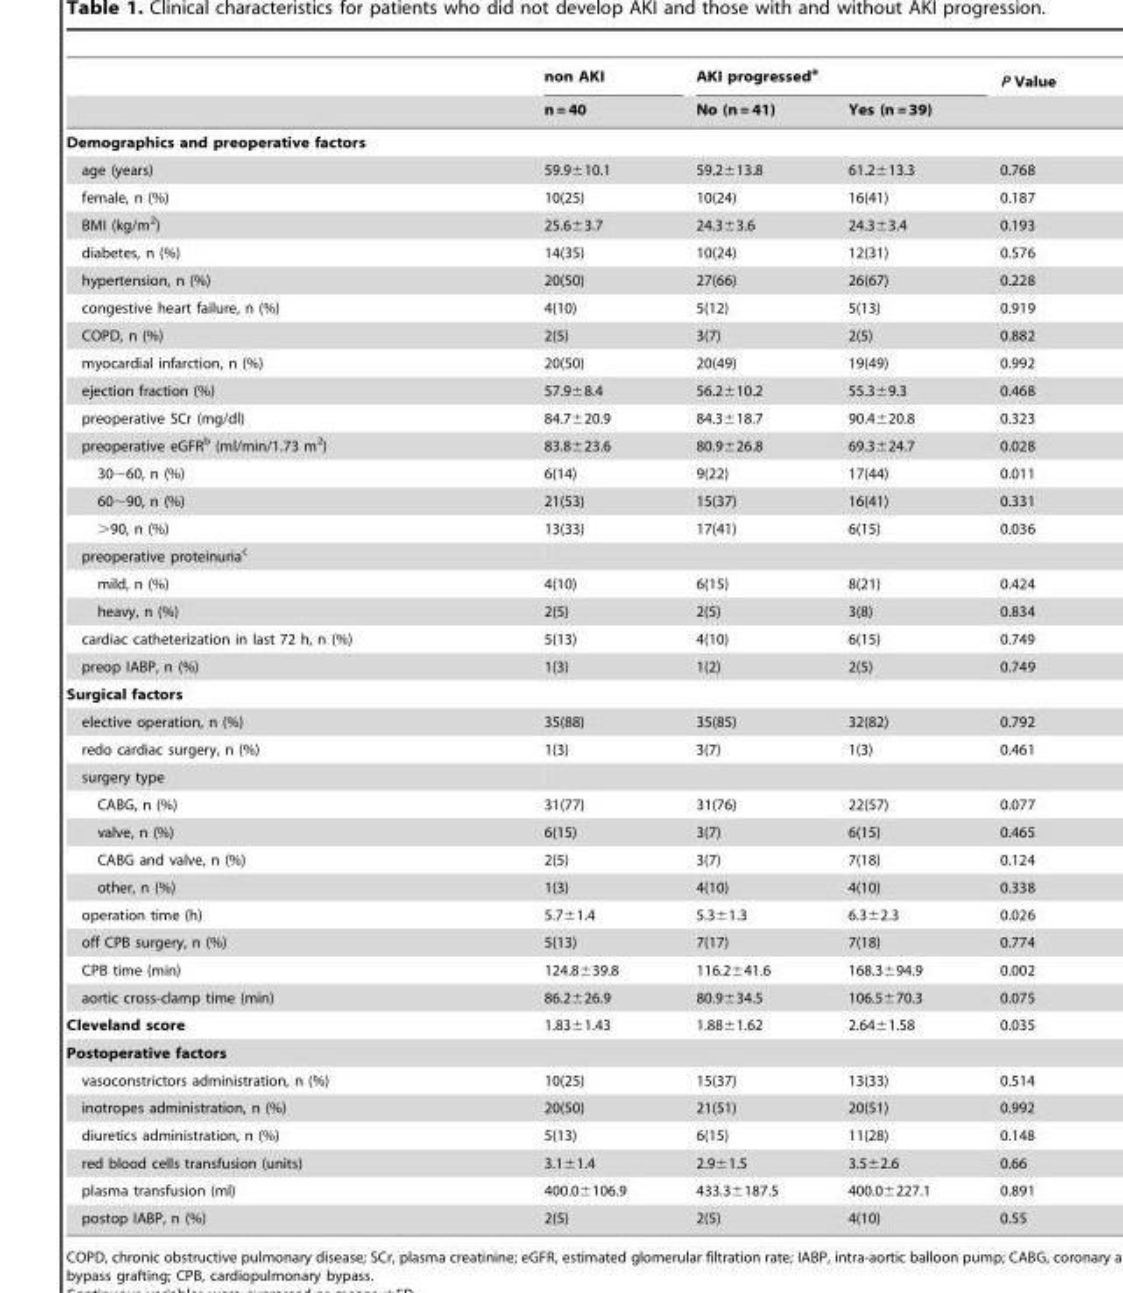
<table><thead><tr><td rowspan="2"></td><td rowspan="2">non AKI n = 40</td><td colspan="2">AKI progressed<sup>a</sup></td><td rowspan="2">P Value</td></tr><tr><td>No (n = 41)</td><td>Yes (n = 39)</td></tr></thead><tbody><tr><td colspan="5">Demographics and preoperative factors</td></tr><tr><td>age (years)</td><td>59.9±10.1</td><td>59.2±13.8</td><td>61.2±13.3</td><td>0.768</td></tr><tr><td>female, n (%)</td><td>10(25)</td><td>10(24)</td><td>16(41)</td><td>0.187</td></tr><tr><td>BMI (kg/m<sup>2</sup>)</td><td>25.6±3.7</td><td>24.3±3.6</td><td>24.3±3.4</td><td>0.193</td></tr><tr><td>diabetes, n (%)</td><td>14(35)</td><td>10(24)</td><td>12(31)</td><td>0.576</td></tr><tr><td>hypertension, n (%)</td><td>20(50)</td><td>27(66)</td><td>26(67)</td><td>0.228</td></tr><tr><td>congestive heart failure, n (%)</td><td>4(10)</td><td>5(12)</td><td>5(13)</td><td>0.919</td></tr><tr><td>COPD, n (%)</td><td>2(5)</td><td>3(7)</td><td>2(5)</td><td>0.882</td></tr><tr><td>myocardial infarction, n (%)</td><td>20(50)</td><td>20(49)</td><td>19(49)</td><td>0.992</td></tr><tr><td>ejection fraction (%)</td><td>57.9±8.4</td><td>56.2±10.2</td><td>55.3±9.3</td><td>0.468</td></tr><tr><td>preoperative SCr (mg/dl)</td><td>84.7±20.9</td><td>84.3±18.7</td><td>90.4±20.8</td><td>0.323</td></tr><tr><td>preoperative eGFR<sup>b</sup> (ml/min/1.73 m<sup>2</sup>)</td><td>83.8±23.6</td><td>80.9±26.8</td><td>69.3±24.7</td><td>0.028</td></tr><tr><td>30∼60, n (%)</td><td>6(14)</td><td>9(22)</td><td>17(44)</td><td>0.011</td></tr><tr><td>60∼90, n (%)</td><td>21(53)</td><td>15(37)</td><td>16(41)</td><td>0.331</td></tr><tr><td>&gt;90, n (%)</td><td>13(33)</td><td>17(41)</td><td>6(15)</td><td>0.036</td></tr><tr><td colspan="5">preoperative proteinuria<sup>c</sup></td></tr><tr><td>mild, n (%)</td><td>4(10)</td><td>6(15)</td><td>8(21)</td><td>0.424</td></tr><tr><td>heavy, n (%)</td><td>2(5)</td><td>2(5)</td><td>3(8)</td><td>0.834</td></tr><tr><td>cardiac catheterization in last 72 h, n (%)</td><td>5(13)</td><td>4(10)</td><td>6(15)</td><td>0.749</td></tr><tr><td>preop IABP, n (%)</td><td>1(3)</td><td>1(2)</td><td>2(5)</td><td>0.749</td></tr><tr><td colspan="5">Surgical factors</td></tr><tr><td>elective operation, n (%)</td><td>35(88)</td><td>35(85)</td><td>32(82)</td><td>0.792</td></tr><tr><td>redo cardiac surgery, n (%)</td><td>1(3)</td><td>3(7)</td><td>1(3)</td><td>0.461</td></tr><tr><td colspan="5">surgery type</td></tr><tr><td>CABG, n (%)</td><td>31(77)</td><td>31(76)</td><td>22(57)</td><td>0.077</td></tr><tr><td>valve, n (%)</td><td>6(15)</td><td>3(7)</td><td>6(15)</td><td>0.465</td></tr><tr><td>CABG and valve, n (%)</td><td>2(5)</td><td>3(7)</td><td>7(18)</td><td>0.124</td></tr><tr><td>other, n (%)</td><td>1(3)</td><td>4(10)</td><td>4(10)</td><td>0.338</td></tr><tr><td>operation time (h)</td><td>5.7±1.4</td><td>5.3±1.3</td><td>6.3±2.3</td><td>0.026</td></tr><tr><td>off CPB surgery, n (%)</td><td>5(13)</td><td>7(17)</td><td>7(18)</td><td>0.774</td></tr><tr><td>CPB time (min)</td><td>124.8±39.8</td><td>116.2±41.6</td><td>168.3±94.9</td><td>0.002</td></tr><tr><td>aortic cross-clamp time (min)</td><td>86.2±26.9</td><td>80.9±34.5</td><td>106.5±70.3</td><td>0.075</td></tr><tr><td>Cleveland score</td><td>1.83±1.43</td><td>1.88±1.62</td><td>2.64±1.58</td><td>0.035</td></tr><tr><td colspan="5">Postoperative factors</td></tr><tr><td>vasoconstrictors administration, n (%)</td><td>10(25)</td><td>15(37)</td><td>13(33)</td><td>0.514</td></tr><tr><td>inotropes administration, n (%)</td><td>20(50)</td><td>21(51)</td><td>20(51)</td><td>0.992</td></tr><tr><td>diuretics administration, n (%)</td><td>5(13)</td><td>6(15)</td><td>11(28)</td><td>0.148</td></tr><tr><td>red blood cells transfusion (units)</td><td>3.1±1.4</td><td>2.9±1.5</td><td>3.5±2.6</td><td>0.66</td></tr><tr><td>plasma transfusion (ml)</td><td>400.0±106.9</td><td>433.3±187.5</td><td>400.0±227.1</td><td>0.891</td></tr><tr><td>postop IABP, n (%)</td><td>2(5)</td><td>2(5)</td><td>4(10)</td><td>0.55</td></tr></tbody></table>